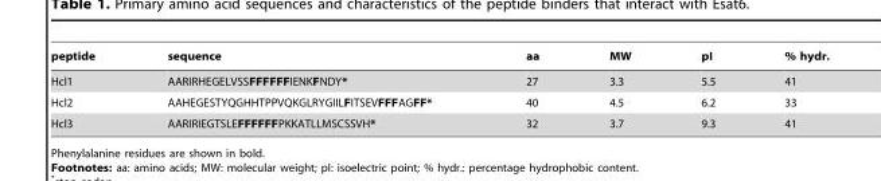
<table><thead><tr><td>peptide</td><td>sequence</td><td>aa</td><td>MW</td><td>pI</td><td>% hydr.</td></tr></thead><tbody><tr><td>Hcl1</td><td>AARIRHEGELVSSFFFFFFIENKFNDY*</td><td>27</td><td>3.3</td><td>5.5</td><td>41</td></tr><tr><td>Hcl2</td><td>AAHEGESTYQGHHTPPVQKGLRYGIILFITSEVFFFAGFF*</td><td>40</td><td>4.5</td><td>6.2</td><td>33</td></tr><tr><td>Hcl3</td><td>AARIRIEGTSLEFFFFFFPKKATLLMSCSSVH*</td><td>32</td><td>3.7</td><td>9.3</td><td>41</td></tr></tbody></table>